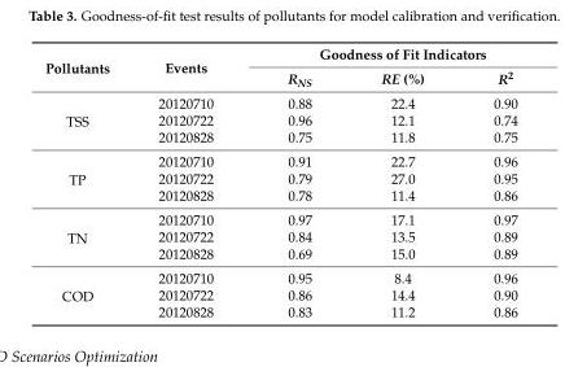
<table><thead><tr><td rowspan="2">Pollutants</td><td rowspan="2">Events</td><td colspan="3">Goodness of Fit Indicators</td></tr><tr><td>R<sub>NS</sub></td><td>RE (%)</td><td>R<sup>2</sup></td></tr></thead><tbody><tr><td rowspan="3">TSS</td><td>20120710</td><td>0.88</td><td>22.4</td><td>0.90</td></tr><tr><td>20120722</td><td>0.96</td><td>12.1</td><td>0.74</td></tr><tr><td>20120828</td><td>0.75</td><td>11.8</td><td>0.75</td></tr><tr><td rowspan="3">TP</td><td>20120710</td><td>0.91</td><td>22.7</td><td>0.96</td></tr><tr><td>20120722</td><td>0.79</td><td>27.0</td><td>0.95</td></tr><tr><td>20120828</td><td>0.78</td><td>11.4</td><td>0.86</td></tr><tr><td rowspan="3">TN</td><td>20120710</td><td>0.97</td><td>17.1</td><td>0.97</td></tr><tr><td>20120722</td><td>0.84</td><td>13.5</td><td>0.89</td></tr><tr><td>20120828</td><td>0.69</td><td>15.0</td><td>0.89</td></tr><tr><td rowspan="3">COD</td><td>20120710</td><td>0.95</td><td>8.4</td><td>0.96</td></tr><tr><td>20120722</td><td>0.86</td><td>14.4</td><td>0.90</td></tr><tr><td>20120828</td><td>0.83</td><td>11.2</td><td>0.86</td></tr></tbody></table>